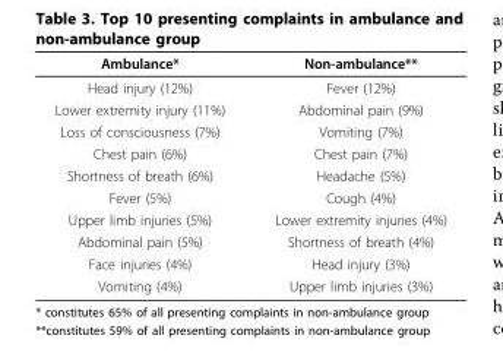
<table><thead><tr><td>Ambulance*</td><td>Non-ambulance**</td></tr></thead><tbody><tr><td>Head injury (12%)</td><td>Fever (12%)</td></tr><tr><td>Lower extremity injury (11%)</td><td>Abdominal pain (9%)</td></tr><tr><td>Loss of consciousness (7%)</td><td>Vomiting (7%)</td></tr><tr><td>Chest pain (6%)</td><td>Chest pain (7%)</td></tr><tr><td>Shortness of breath (6%)</td><td>Headache (5%)</td></tr><tr><td>Fever (5%)</td><td>Cough (4%)</td></tr><tr><td>Upper limb injuries (5%)</td><td>Lower extremity injuries (4%)</td></tr><tr><td>Abdominal pain (5%)</td><td>Shortness of breath (4%)</td></tr><tr><td>Face injuries (4%)</td><td>Head injury (3%)</td></tr><tr><td>Vomiting (4%)</td><td>Upper limb injuries (3%)</td></tr></tbody></table>